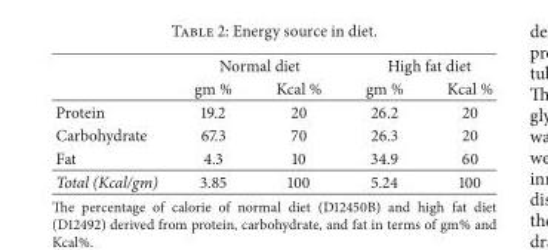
<table><thead><tr><td rowspan="2"></td><td colspan="2">Normal diet</td><td colspan="2">High fat diet</td></tr><tr><td>gm %</td><td>Kcal %</td><td>gm %</td><td>Kcal %</td></tr></thead><tbody><tr><td>Protein</td><td>19.2</td><td>20</td><td>26.2</td><td>20</td></tr><tr><td>Carbohydrate</td><td>67.3</td><td>70</td><td>26.3</td><td>20</td></tr><tr><td>Fat</td><td>4.3</td><td>10</td><td>34.9</td><td>60</td></tr><tr><td>Total (Kcal/gm)</td><td>3.85</td><td>100</td><td>5.24</td><td>100</td></tr></tbody></table>